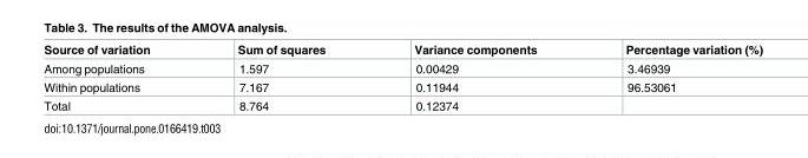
<table><thead><tr><td>Source of variation</td><td>Sum of squares</td><td>Variance components</td><td>Percentage variation (%)</td></tr></thead><tbody><tr><td>Among populations</td><td>1.597</td><td>0.00429</td><td>3.46939</td></tr><tr><td>Within populations</td><td>7.167</td><td>0.11944</td><td>96.53061</td></tr><tr><td>Total</td><td>8.764</td><td>0.12374</td><td></td></tr></tbody></table>